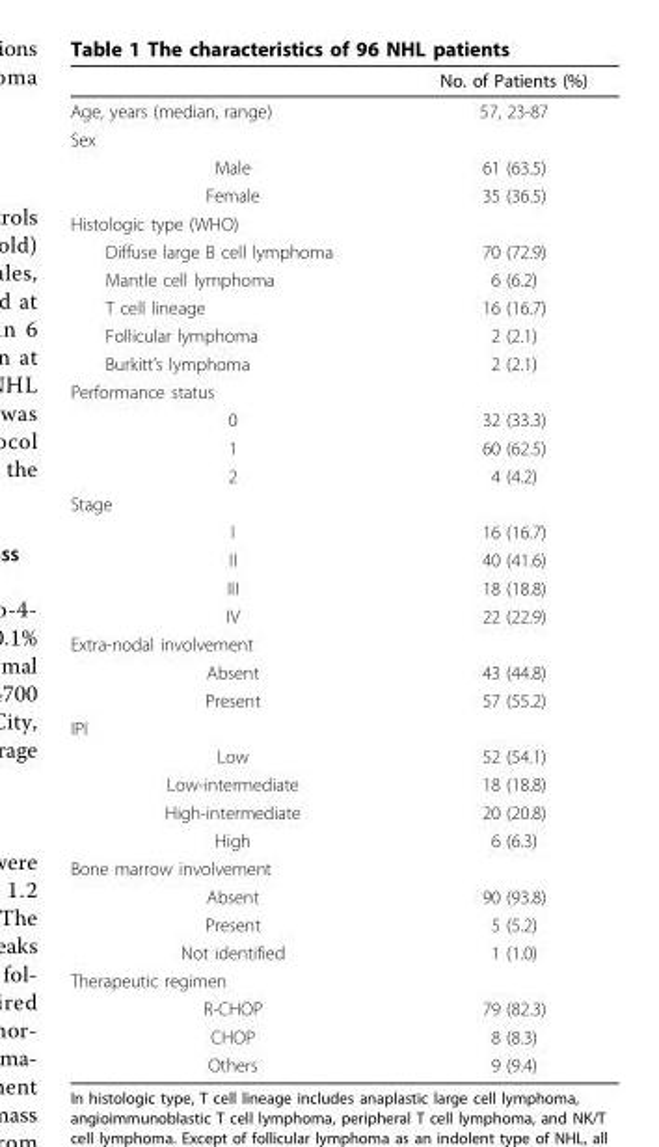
<table><thead><tr><td></td><td>No. of Patients (%)</td></tr></thead><tbody><tr><td>Age, years (median, range)</td><td>57, 23-87</td></tr><tr><td colspan="2">Sex</td></tr><tr><td>Male</td><td>61 (63.5)</td></tr><tr><td>Female</td><td>35 (36.5)</td></tr><tr><td colspan="2">Histologic type (WHO)</td></tr><tr><td>Diffuse large B cell lymphoma</td><td>70 (72.9)</td></tr><tr><td>Mantle cell lymphoma</td><td>6 (6.2)</td></tr><tr><td>T cell lineage</td><td>16 (16.7)</td></tr><tr><td>Follicular lymphoma</td><td>2 (2.1)</td></tr><tr><td>Burkitt’s lymphoma</td><td>2 (2.1)</td></tr><tr><td colspan="2">Performance status</td></tr><tr><td>0</td><td>32 (33.3)</td></tr><tr><td>1</td><td>60 (62.5)</td></tr><tr><td>2</td><td>4 (4.2)</td></tr><tr><td colspan="2">Stage</td></tr><tr><td>I</td><td>16 (16.7)</td></tr><tr><td>II</td><td>40 (41.6)</td></tr><tr><td>III</td><td>18 (18.8)</td></tr><tr><td>IV</td><td>22 (22.9)</td></tr><tr><td colspan="2">Extra-nodal involvement</td></tr><tr><td>Absent</td><td>43 (44.8)</td></tr><tr><td>Present</td><td>57 (55.2)</td></tr><tr><td colspan="2">IPI</td></tr><tr><td>Low</td><td>52 (54.1)</td></tr><tr><td>Low-intermediate</td><td>18 (18.8)</td></tr><tr><td>High-intermediate</td><td>20 (20.8)</td></tr><tr><td>High</td><td>6 (6.3)</td></tr><tr><td colspan="2">Bone marrow involvement</td></tr><tr><td>Absent</td><td>90 (93.8)</td></tr><tr><td>Present</td><td>5 (5.2)</td></tr><tr><td>Not identified</td><td>1 (1.0)</td></tr><tr><td colspan="2">Therapeutic regimen</td></tr><tr><td>R-CHOP</td><td>79 (82.3)</td></tr><tr><td>CHOP</td><td>8 (8.3)</td></tr><tr><td>Others</td><td>9 (9.4)</td></tr></tbody></table>